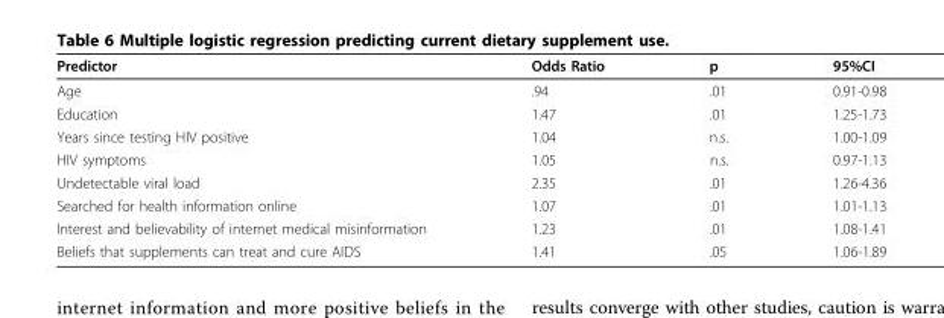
<table><thead><tr><td>Predictor</td><td>Odds Ratio</td><td>p</td><td>95%CI</td></tr></thead><tbody><tr><td>Age</td><td>.94</td><td>.01</td><td>0.91-0.98</td></tr><tr><td>Education</td><td>1.47</td><td>.01</td><td>1.25-1.73</td></tr><tr><td>Years since testing HIV positive</td><td>1.04</td><td>n.s.</td><td>1.00-1.09</td></tr><tr><td>HIV symptoms</td><td>1.05</td><td>n.s.</td><td>0.97-1.13</td></tr><tr><td>Undetectable viral load</td><td>2.35</td><td>.01</td><td>1.26-4.36</td></tr><tr><td>Searched for health information online</td><td>1.07</td><td>.01</td><td>1.01-1.13</td></tr><tr><td>Interest and believability of internet medical misinformation</td><td>1.23</td><td>.01</td><td>1.08-1.41</td></tr><tr><td>Beliefs that supplements can treat and cure AIDS</td><td>1.41</td><td>.05</td><td>1.06-1.89</td></tr></tbody></table>